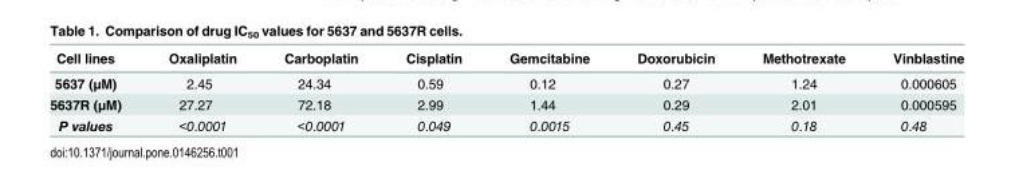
<table><thead><tr><td>Cell lines</td><td>Oxaliplatin</td><td>Carboplatin</td><td>Cisplatin</td><td>Gemcitabine</td><td>Doxorubicin</td><td>Methotrexate</td><td>Vinblastine</td></tr></thead><tbody><tr><td>5637 (μM)</td><td>2.45</td><td>24.34</td><td>0.59</td><td>0.12</td><td>0.27</td><td>1.24</td><td>0.000605</td></tr><tr><td>5637R (μM)</td><td>27.27</td><td>72.18</td><td>2.99</td><td>1.44</td><td>0.29</td><td>2.01</td><td>0.000595</td></tr><tr><td>P values</td><td>&lt;0.0001</td><td>&lt;0.0001</td><td>0.049</td><td>0.0015</td><td>0.45</td><td>0.18</td><td>0.48</td></tr></tbody></table>